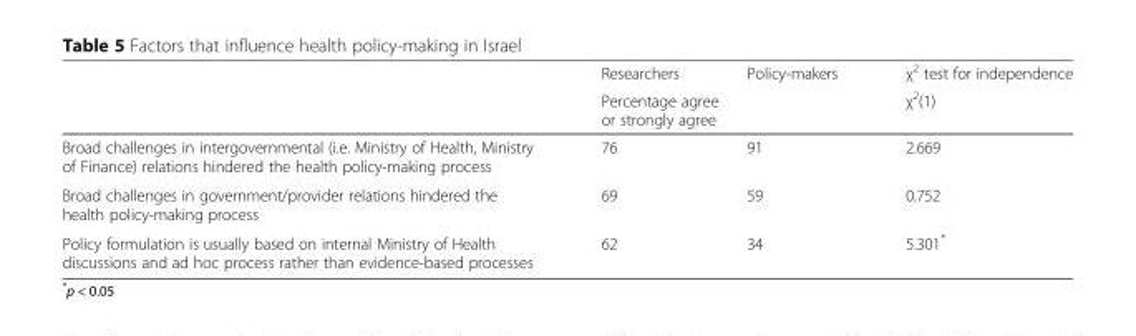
<table><thead><tr><td rowspan="2"></td><td>Researchers</td><td>Policy-makers</td><td rowspan="2">χ<sup>2</sup> test for independence χ<sup>2</sup>(1)</td></tr><tr><td colspan="2">Percentage agree or strongly agree</td></tr></thead><tbody><tr><td>Broad challenges in intergovernmental (i.e. Ministry of Health, Ministry of Finance) relations hindered the health policy-making process</td><td>76</td><td>91</td><td>2.669</td></tr><tr><td>Broad challenges in government/provider relations hindered the health policy-making process</td><td>69</td><td>59</td><td>0.752</td></tr><tr><td>Policy formulation is usually based on internal Ministry of Health discussions and ad hoc process rather than evidence-based processes</td><td>62</td><td>34</td><td>5.301*</td></tr></tbody></table>